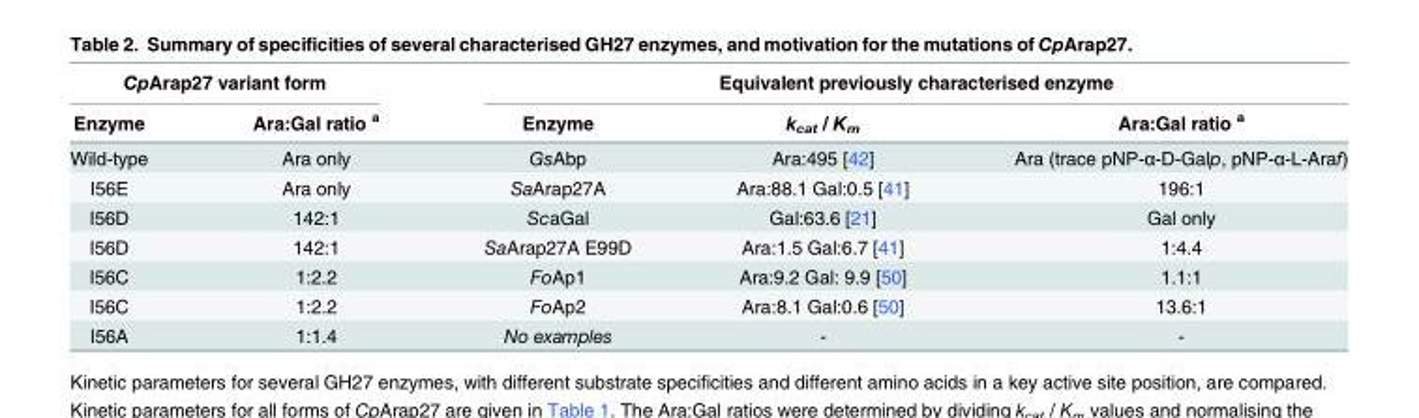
<table><thead><tr><td colspan="2">CpArap27 variant form</td><td colspan="3">Equivalent previously characterised enzyme</td></tr><tr><td>Enzyme</td><td>Ara:Gal ratio <sup>a</sup></td><td>Enzyme</td><td>k<sub>cat</sub> / K<sub>m</sub></td><td>Ara:Gal ratio <sup>a</sup></td></tr></thead><tbody><tr><td>Wild-type</td><td>Ara only</td><td>GsAbp</td><td>Ara:495 [42]</td><td>Ara (trace pNP-α-D-Galp, pNP-α-L-Araf)</td></tr><tr><td>I56E</td><td>Ara only</td><td>SaArap27A</td><td>Ara:88.1 Gal:0.5 [41]</td><td>196:1</td></tr><tr><td>I56D</td><td>142:1</td><td>ScaGal</td><td>Gal:63.6 [21]</td><td>Gal only</td></tr><tr><td>I56D</td><td>142:1</td><td>SaArap27A E99D</td><td>Ara:1.5 Gal:6.7 [41]</td><td>1:4.4</td></tr><tr><td>I56C</td><td>1:2.2</td><td>FoAp1</td><td>Ara:9.2 Gal: 9.9 [50]</td><td>1.1:1</td></tr><tr><td>I56C</td><td>1:2.2</td><td>FoAp2</td><td>Ara:8.1 Gal:0.6 [50]</td><td>13.6:1</td></tr><tr><td>I56A</td><td>1:1.4</td><td>No examples</td><td>-</td><td>-</td></tr></tbody></table>